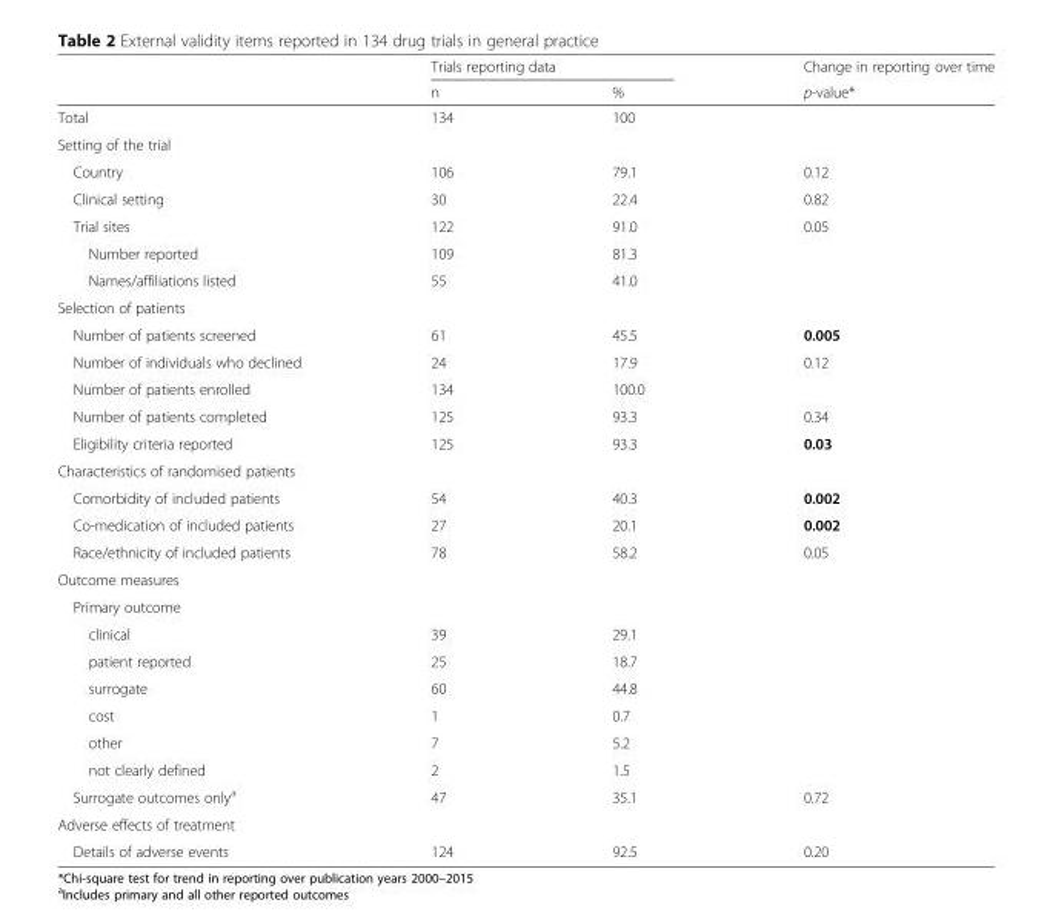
<table><thead><tr><td rowspan="2"></td><td colspan="2">Trials reporting data</td><td rowspan="2">Change in reporting over time p-value*</td></tr><tr><td>n</td><td>%</td></tr></thead><tbody><tr><td>Total</td><td>134</td><td>100</td><td></td></tr><tr><td colspan="4">Setting of the trial</td></tr><tr><td>Country</td><td>106</td><td>79.1</td><td>0.12</td></tr><tr><td>Clinical setting</td><td>30</td><td>22.4</td><td>0.82</td></tr><tr><td>Trial sites</td><td>122</td><td>91.0</td><td>0.05</td></tr><tr><td>Number reported</td><td>109</td><td>81.3</td><td></td></tr><tr><td>Names/affiliations listed</td><td>55</td><td>41.0</td><td></td></tr><tr><td colspan="4">Selection of patients</td></tr><tr><td>Number of patients screened</td><td>61</td><td>45.5</td><td>0.005</td></tr><tr><td>Number of individuals who declined</td><td>24</td><td>17.9</td><td>0.12</td></tr><tr><td>Number of patients enrolled</td><td>134</td><td>100.0</td><td></td></tr><tr><td>Number of patients completed</td><td>125</td><td>93.3</td><td>0.34</td></tr><tr><td>Eligibility criteria reported</td><td>125</td><td>93.3</td><td>0.03</td></tr><tr><td colspan="4">Characteristics of randomised patients</td></tr><tr><td>Comorbidity of included patients</td><td>54</td><td>40.3</td><td>0.002</td></tr><tr><td>Co-medication of included patients</td><td>27</td><td>20.1</td><td>0.002</td></tr><tr><td>Race/ethnicity of included patients</td><td>78</td><td>58.2</td><td>0.05</td></tr><tr><td colspan="4">Outcome measures</td></tr><tr><td colspan="4">Primary outcome</td></tr><tr><td>clinical</td><td>39</td><td>29.1</td><td></td></tr><tr><td>patient reported</td><td>25</td><td>18.7</td><td></td></tr><tr><td>surrogate</td><td>60</td><td>44.8</td><td></td></tr><tr><td>cost</td><td>1</td><td>0.7</td><td></td></tr><tr><td>other</td><td>7</td><td>5.2</td><td></td></tr><tr><td>not clearly defined</td><td>2</td><td>1.5</td><td></td></tr><tr><td>Surrogate outcomes only<sup>a</sup></td><td>47</td><td>35.1</td><td>0.72</td></tr><tr><td colspan="4">Adverse effects of treatment</td></tr><tr><td>Details of adverse events</td><td>124</td><td>92.5</td><td>0.20</td></tr></tbody></table>